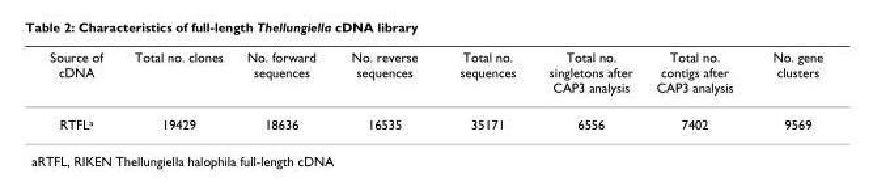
<table><thead><tr><td>Source of cDNA</td><td>Total no. clones</td><td>No. forward sequences</td><td>No. reverse sequences</td><td>Total no. sequences</td><td>Total no. singletons after CAP3 analysis</td><td>Total no. contigs after CAP3 analysis</td><td>No. gene clusters</td></tr></thead><tbody><tr><td>RTFL<sup>a</sup></td><td>19429</td><td>18636</td><td>16535</td><td>35171</td><td>6556</td><td>7402</td><td>9569</td></tr></tbody></table>